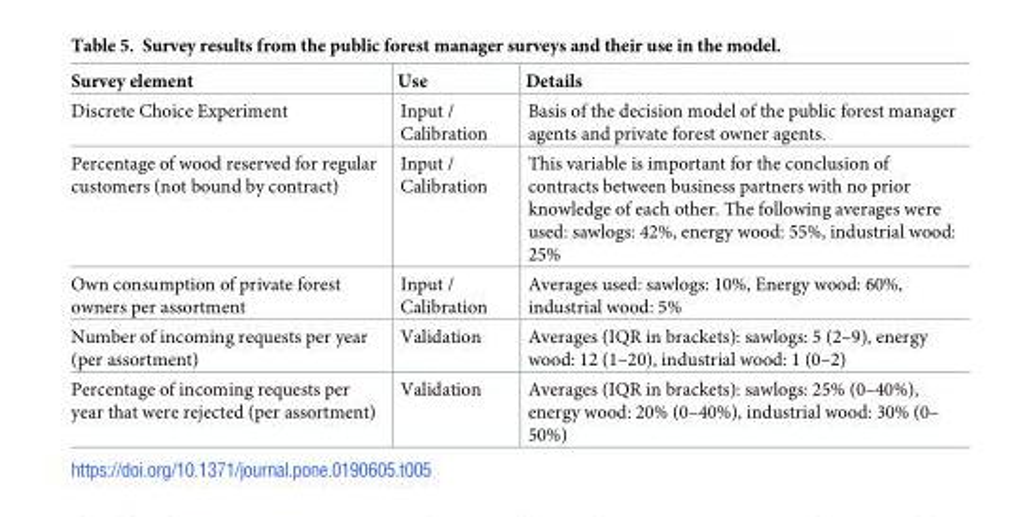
<table><thead><tr><td>Survey element</td><td>Use</td><td>Details</td></tr></thead><tbody><tr><td>Discrete Choice Experiment</td><td>Input / Calibration</td><td>Basis of the decision model of the public forest manager agents and private forest owner agents.</td></tr><tr><td>Percentage of wood reserved for regular customers (not bound by contract)</td><td>Input / Calibration</td><td>This variable is important for the conclusion of contracts between business partners with no prior knowledge of each other. The following averages were used: sawlogs: 42%, energy wood: 55%, industrial wood: 25%</td></tr><tr><td>Own consumption of private forest owners per assortment</td><td>Input / Calibration</td><td>Averages used: sawlogs: 10%, Energy wood: 60%, industrial wood: 5%</td></tr><tr><td>Number of incoming requests per year (per assortment)</td><td>Validation</td><td>Averages (IQR in brackets): sawlogs: 5 (2–9), energy wood: 12 (1–20), industrial wood: 1 (0–2)</td></tr><tr><td>Percentage of incoming requests per year that were rejected (per assortment)</td><td>Validation</td><td>Averages (IQR in brackets): sawlogs: 25% (0–40%), energy wood: 20% (0–40%), industrial wood: 30% (0– 50%)</td></tr></tbody></table>